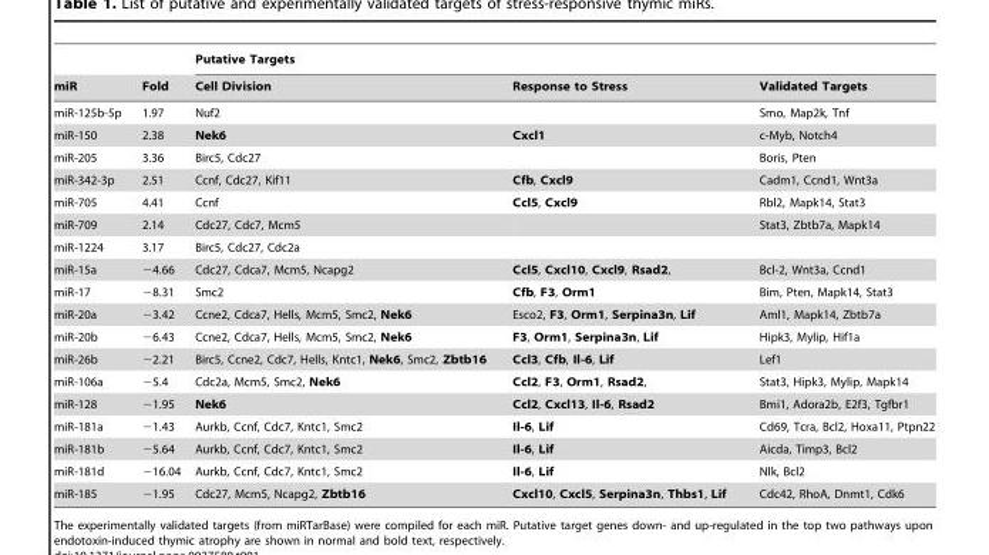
<table><thead><tr><td rowspan="2">miR</td><td rowspan="2">Fold</td><td colspan="3">Putative Targets</td></tr><tr><td>Cell Division</td><td>Response to Stress</td><td>Validated Targets</td></tr></thead><tbody><tr><td>miR-125b-5p</td><td>1.97</td><td>Nuf2</td><td></td><td>Smo, Map2k, Tnf</td></tr><tr><td>miR-150</td><td>2.38</td><td>Nek6</td><td>Cxcl1</td><td>c-Myb, Notch4</td></tr><tr><td>miR-205</td><td>3.36</td><td>Birc5, Cdc27</td><td></td><td>Boris, Pten</td></tr><tr><td>miR-342-3p</td><td>2.51</td><td>Ccnf, Cdc27, Kif11</td><td>Cfb, Cxcl9</td><td>Cadm1, Ccnd1, Wnt3a</td></tr><tr><td>miR-705</td><td>4.41</td><td>Ccnf</td><td>Ccl5, Cxcl9</td><td>Rbl2, Mapk14, Stat3</td></tr><tr><td>miR-709</td><td>2.14</td><td>Cdc27, Cdc7, Mcm5</td><td></td><td>Stat3, Zbtb7a, Mapk14</td></tr><tr><td>miR-1224</td><td>3.17</td><td>Birc5, Cdc27, Cdc2a</td><td></td><td></td></tr><tr><td>miR-15a</td><td>−4.66</td><td>Cdc27, Cdca7, Mcm5, Ncapg2</td><td>Ccl5, Cxcl10, Cxcl9, Rsad2,</td><td>Bcl-2, Wnt3a, Ccnd1</td></tr><tr><td>miR-17</td><td>−8.31</td><td>Smc2</td><td>Cfb, F3, Orm1</td><td>Bim, Pten, Mapk14, Stat3</td></tr><tr><td>miR-20a</td><td>−3.42</td><td>Ccne2, Cdca7, Hells, Mcm5, Smc2, Nek6</td><td>Esco2, F3, Orm1, Serpina3n, Lif</td><td>Aml1, Mapk14, Zbtb7a</td></tr><tr><td>miR-20b</td><td>−6.43</td><td>Ccne2, Cdca7, Hells, Mcm5, Smc2, Nek6</td><td>F3, Orm1, Serpina3n, Lif</td><td>Hipk3, Mylip, Hif1a</td></tr><tr><td>miR-26b</td><td>−2.21</td><td>Birc5, Ccne2, Cdc7, Hells, Kntc1, Nek6, Smc2, Zbtb16</td><td>Ccl3, Cfb, Il-6, Lif</td><td>Lef1</td></tr><tr><td>miR-106a</td><td>−5.4</td><td>Cdc2a, Mcm5, Smc2, Nek6</td><td>Ccl2, F3, Orm1, Rsad2,</td><td>Stat3, Hipk3, Mylip, Mapk14</td></tr><tr><td>miR-128</td><td>−1.95</td><td>Nek6</td><td>Ccl2, Cxcl13, Il-6, Rsad2</td><td>Bmi1, Adora2b, E2f3, Tgfbr1</td></tr><tr><td>miR-181a</td><td>−1.43</td><td>Aurkb, Ccnf, Cdc7, Kntc1, Smc2</td><td>Il-6, Lif</td><td>Cd69, Tcra, Bcl2, Hoxa11, Ptpn22</td></tr><tr><td>miR-181b</td><td>−5.64</td><td>Aurkb, Ccnf, Cdc7, Kntc1, Smc2</td><td>Il-6, Lif</td><td>Aicda, Timp3, Bcl2</td></tr><tr><td>miR-181d</td><td>−16.04</td><td>Aurkb, Ccnf, Cdc7, Kntc1, Smc2</td><td>Il-6, Lif</td><td>Nlk, Bcl2</td></tr><tr><td>miR-185</td><td>−1.95</td><td>Cdc27, Mcm5, Ncapg2, Zbtb16</td><td>Cxcl10, Cxcl5, Serpina3n, Thbs1, Lif</td><td>Cdc42, RhoA, Dnmt1, Cdk6</td></tr></tbody></table>